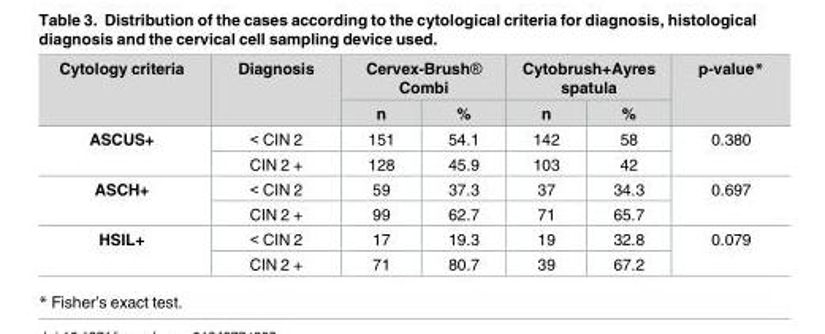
<table><thead><tr><td rowspan="2">Cytology criteria</td><td rowspan="2">Diagnosis</td><td colspan="2">Cervex-Brush® Combi</td><td colspan="2">Cytobrush+Ayres spatula</td><td rowspan="2">p-value*</td></tr><tr><td>n</td><td>%</td><td>n</td><td>%</td></tr></thead><tbody><tr><td rowspan="2">ASCUS+</td><td>&lt; CIN 2</td><td>151</td><td>54.1</td><td>142</td><td>58</td><td rowspan="2">0.380</td></tr><tr><td>CIN 2 +</td><td>128</td><td>45.9</td><td>103</td><td>42</td></tr><tr><td rowspan="2">ASCH+</td><td>&lt; CIN 2</td><td>59</td><td>37.3</td><td>37</td><td>34.3</td><td rowspan="2">0.697</td></tr><tr><td>CIN 2 +</td><td>99</td><td>62.7</td><td>71</td><td>65.7</td></tr><tr><td rowspan="2">HSIL+</td><td>&lt; CIN 2</td><td>17</td><td>19.3</td><td>19</td><td>32.8</td><td rowspan="2">0.079</td></tr><tr><td>CIN 2 +</td><td>71</td><td>80.7</td><td>39</td><td>67.2</td></tr></tbody></table>